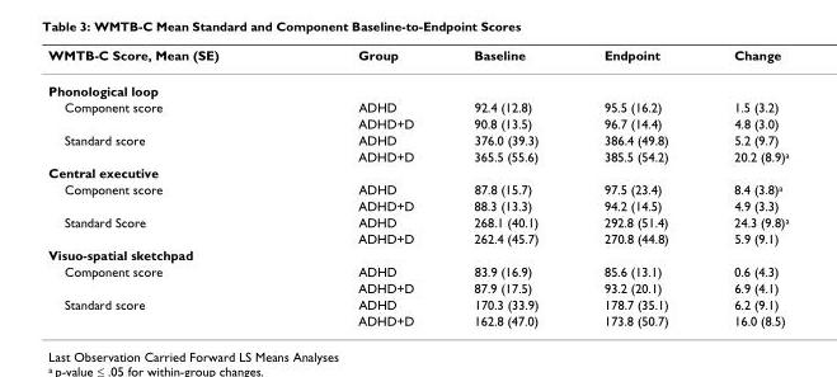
<table><thead><tr><td>WMTB-C Score, Mean (SE)</td><td>Group</td><td>Baseline</td><td>Endpoint</td><td>Change</td></tr></thead><tbody><tr><td colspan="5">Phonological loop</td></tr><tr><td rowspan="2">Component score</td><td>ADHD</td><td>92.4 (12.8)</td><td>95.5 (16.2)</td><td>1.5 (3.2)</td></tr><tr><td>ADHD+D</td><td>90.8 (13.5)</td><td>96.7 (14.4)</td><td>4.8 (3.0)</td></tr><tr><td rowspan="2">Standard score</td><td>ADHD</td><td>376.0 (39.3)</td><td>386.4 (49.8)</td><td>5.2 (9.7)</td></tr><tr><td>ADHD+D</td><td>365.5 (55.6)</td><td>385.5 (54.2)</td><td>20.2 (8.9)<sup>a</sup></td></tr><tr><td colspan="5">Central executive</td></tr><tr><td rowspan="2">Component score</td><td>ADHD</td><td>87.8 (15.7)</td><td>97.5 (23.4)</td><td>8.4 (3.8)<sup>a</sup></td></tr><tr><td>ADHD+D</td><td>88.3 (13.3)</td><td>94.2 (14.5)</td><td>4.9 (3.3)</td></tr><tr><td rowspan="2">Standard Score</td><td>ADHD</td><td>268.1 (40.1)</td><td>292.8 (51.4)</td><td>24.3 (9.8)<sup>a</sup></td></tr><tr><td>ADHD+D</td><td>262.4 (45.7)</td><td>270.8 (44.8)</td><td>5.9 (9.1)</td></tr><tr><td colspan="5">Visuo-spatial sketchpad</td></tr><tr><td rowspan="2">Component score</td><td>ADHD</td><td>83.9 (16.9)</td><td>85.6 (13.1)</td><td>0.6 (4.3)</td></tr><tr><td>ADHD+D</td><td>87.9 (17.5)</td><td>93.2 (20.1)</td><td>6.9 (4.1)</td></tr><tr><td rowspan="2">Standard score</td><td>ADHD</td><td>170.3 (33.9)</td><td>178.7 (35.1)</td><td>6.2 (9.1)</td></tr><tr><td>ADHD+D</td><td>162.8 (47.0)</td><td>173.8 (50.7)</td><td>16.0 (8.5)</td></tr></tbody></table>